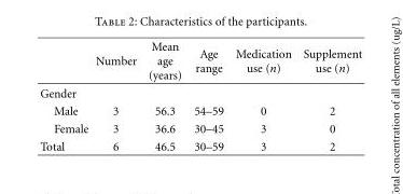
<table><thead><tr><td></td><td>Number</td><td>Mean age (years)</td><td>Age range</td><td>Medication use (n)</td><td>Supplement use (n)</td></tr></thead><tbody><tr><td colspan="6">Gender</td></tr><tr><td>Male</td><td>3</td><td>56.3</td><td>54–59</td><td>0</td><td>2</td></tr><tr><td>Female</td><td>3</td><td>36.6</td><td>30–45</td><td>3</td><td>0</td></tr><tr><td>Total</td><td>6</td><td>46.5</td><td>30–59</td><td>3</td><td>2</td></tr></tbody></table>